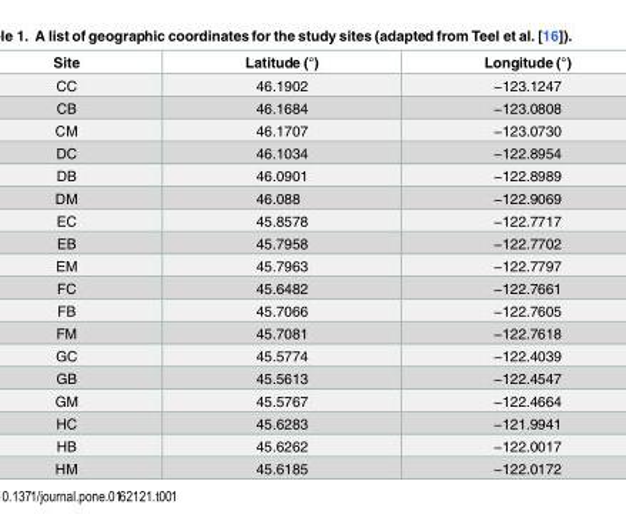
<table><thead><tr><td>Site</td><td>Latitude (°)</td><td>Longitude (°)</td></tr></thead><tbody><tr><td>CC</td><td>46.1902</td><td>−123.1247</td></tr><tr><td>CB</td><td>46.1684</td><td>−123.0808</td></tr><tr><td>CM</td><td>46.1707</td><td>−123.0730</td></tr><tr><td>DC</td><td>46.1034</td><td>−122.8954</td></tr><tr><td>DB</td><td>46.0901</td><td>−122.8989</td></tr><tr><td>DM</td><td>46.088</td><td>−122.9069</td></tr><tr><td>EC</td><td>45.8578</td><td>−122.7717</td></tr><tr><td>EB</td><td>45.7958</td><td>−122.7702</td></tr><tr><td>EM</td><td>45.7963</td><td>−122.7797</td></tr><tr><td>FC</td><td>45.6482</td><td>−122.7661</td></tr><tr><td>FB</td><td>45.7066</td><td>−122.7605</td></tr><tr><td>FM</td><td>45.7081</td><td>−122.7618</td></tr><tr><td>GC</td><td>45.5774</td><td>−122.4039</td></tr><tr><td>GB</td><td>45.5613</td><td>−122.4547</td></tr><tr><td>GM</td><td>45.5767</td><td>−122.4664</td></tr><tr><td>HC</td><td>45.6283</td><td>−121.9941</td></tr><tr><td>HB</td><td>45.6262</td><td>−122.0017</td></tr><tr><td>HM</td><td>45.6185</td><td>−122.0172</td></tr></tbody></table>